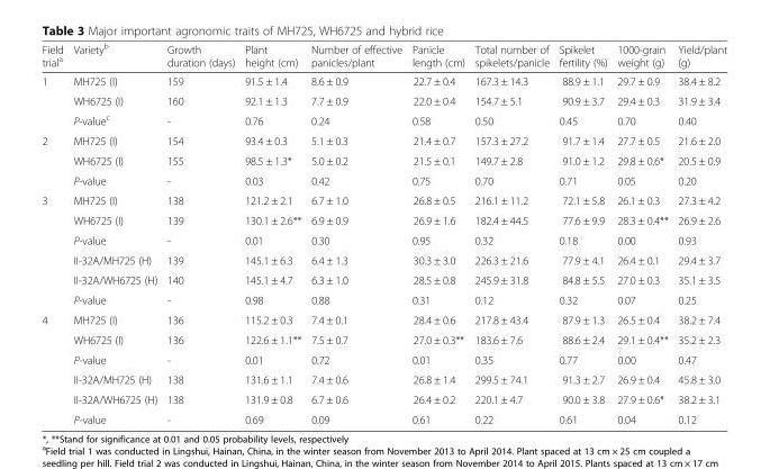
<table><thead><tr><td>Field trial<sup>a</sup></td><td>Variety<sup>b</sup></td><td>Growth duration (days)</td><td>Plant height (cm)</td><td>Number of effective panicles/plant</td><td>Panicle length (cm)</td><td>Total number of spikelets/panicle</td><td>Spikelet fertility (%)</td><td>1000-grain weight (g)</td><td>Yield/plant (g)</td></tr></thead><tbody><tr><td rowspan="3">1</td><td>MH725 (I)</td><td>159</td><td>91.5 ± 1.4</td><td>8.6 ± 0.9</td><td>22.7 ± 0.4</td><td>167.3 ± 14.3</td><td>88.9 ± 1.1</td><td>29.7 ± 0.9</td><td>38.4 ± 8.2</td></tr><tr><td>WH6725 (I)</td><td>160</td><td>92.1 ± 1.3</td><td>7.7 ± 0.9</td><td>22.0 ± 0.4</td><td>154.7 ± 5.1</td><td>90.9 ± 3.7</td><td>29.4 ± 0.3</td><td>31.9 ± 3.4</td></tr><tr><td>P-value<sup>c</sup></td><td>-</td><td>0.76</td><td>0.24</td><td>0.58</td><td>0.50</td><td>0.45</td><td>0.70</td><td>0.40</td></tr><tr><td rowspan="3">2</td><td>MH725 (I)</td><td>154</td><td>93.4 ± 0.3</td><td>5.1 ± 0.3</td><td>21.4 ± 0.7</td><td>157.3 ± 27.2</td><td>91.7 ± 1.4</td><td>27.7 ± 0.5</td><td>21.6 ± 2.0</td></tr><tr><td>WH6725 (I)</td><td>155</td><td>98.5 ± 1.3*</td><td>5.0 ± 0.2</td><td>21.5 ± 0.1</td><td>149.7 ± 2.8</td><td>91.0 ± 1.2</td><td>29.8 ± 0.6*</td><td>20.5 ± 0.9</td></tr><tr><td>P-value</td><td>-</td><td>0.03</td><td>0.42</td><td>0.75</td><td>0.70</td><td>0.71</td><td>0.05</td><td>0.20</td></tr><tr><td rowspan="6">3</td><td>MH725 (I)</td><td>138</td><td>121.2 ± 2.1</td><td>6.7 ± 1.0</td><td>26.8 ± 0.5</td><td>216.1 ± 11.2</td><td>72.1 ± 5.8</td><td>26.1 ± 0.3</td><td>27.3 ± 4.2</td></tr><tr><td>WH6725 (I)</td><td>139</td><td>130.1 ± 2.6**</td><td>6.9 ± 0.9</td><td>26.9 ± 1.6</td><td>182.4 ± 44.5</td><td>77.6 ± 9.9</td><td>28.3 ± 0.4**</td><td>26.9 ± 2.6</td></tr><tr><td>P-value</td><td>-</td><td>0.01</td><td>0.30</td><td>0.95</td><td>0.32</td><td>0.18</td><td>0.00</td><td>0.93</td></tr><tr><td>II-32A/MH725 (H)</td><td>139</td><td>145.1 ± 6.3</td><td>6.4 ± 1.3</td><td>30.3 ± 3.0</td><td>226.3 ± 21.6</td><td>77.9 ± 4.1</td><td>26.4 ± 0.1</td><td>29.4 ± 3.7</td></tr><tr><td>II-32A/WH6725 (H)</td><td>140</td><td>145.1 ± 4.7</td><td>6.3 ± 1.0</td><td>28.5 ± 0.8</td><td>245.9 ± 31.8</td><td>84.8 ± 5.5</td><td>27.0 ± 0.3</td><td>35.1 ± 3.5</td></tr><tr><td>P-value</td><td>-</td><td>0.98</td><td>0.88</td><td>0.31</td><td>0.12</td><td>0.32</td><td>0.07</td><td>0.25</td></tr><tr><td rowspan="6">4</td><td>MH725 (I)</td><td>136</td><td>115.2 ± 0.3</td><td>7.4 ± 0.1</td><td>28.4 ± 0.6</td><td>217.8 ± 43.4</td><td>87.9 ± 1.3</td><td>26.5 ± 0.4</td><td>38.2 ± 7.4</td></tr><tr><td>WH6725 (I)</td><td>136</td><td>122.6 ± 1.1**</td><td>7.5 ± 0.7</td><td>27.0 ± 0.3**</td><td>183.6 ± 7.6</td><td>88.6 ± 2.4</td><td>29.1 ± 0.4**</td><td>35.2 ± 2.3</td></tr><tr><td>P-value</td><td>-</td><td>0.01</td><td>0.72</td><td>0.01</td><td>0.35</td><td>0.77</td><td>0.00</td><td>0.47</td></tr><tr><td>II-32A/MH725 (H)</td><td>138</td><td>131.6 ± 1.1</td><td>7.4 ± 0.6</td><td>26.8 ± 1.4</td><td>299.5 ± 74.1</td><td>91.3 ± 2.7</td><td>26.9 ± 0.4</td><td>45.8 ± 3.0</td></tr><tr><td>II-32A/WH6725 (H)</td><td>138</td><td>131.9 ± 0.8</td><td>6.7 ± 0.6</td><td>26.4 ± 0.2</td><td>220.1 ± 4.7</td><td>90.0 ± 3.8</td><td>27.9 ± 0.6*</td><td>38.2 ± 3.1</td></tr><tr><td>P-value</td><td>-</td><td>0.69</td><td>0.09</td><td>0.61</td><td>0.22</td><td>0.61</td><td>0.04</td><td>0.12</td></tr></tbody></table>